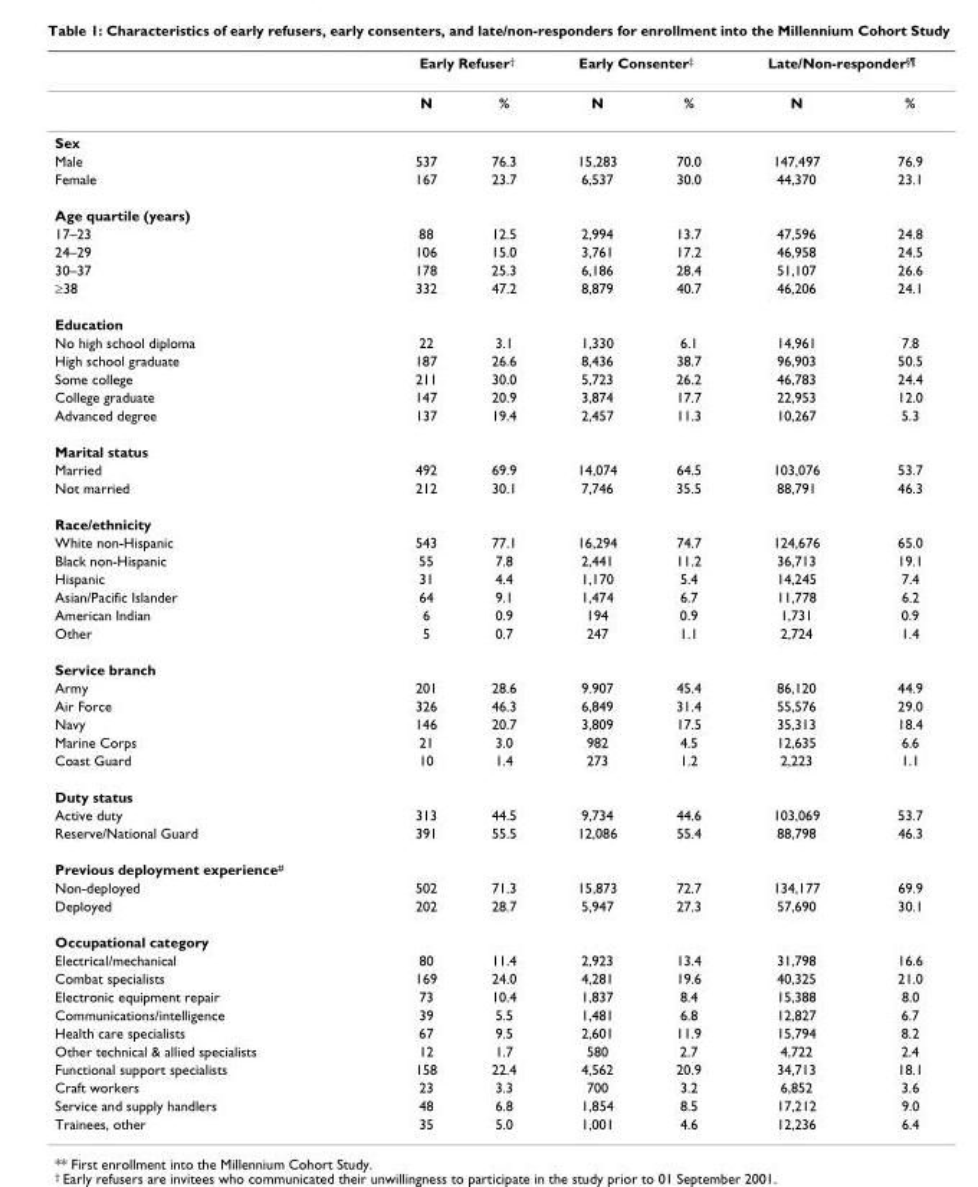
<table><thead><tr><td rowspan="2"></td><td colspan="2">Early Refuser<sup>†</sup></td><td colspan="2">Early Consenter<sup>‡</sup></td><td colspan="2">Late/Non-responder<sup>§¶</sup></td></tr><tr><td>N</td><td>%</td><td>N</td><td>%</td><td>N</td><td>%</td></tr></thead><tbody><tr><td colspan="7">Sex</td></tr><tr><td>Male</td><td>537</td><td>76.3</td><td>15,283</td><td>70.0</td><td>147,497</td><td>76.9</td></tr><tr><td>Female</td><td>167</td><td>23.7</td><td>6,537</td><td>30.0</td><td>44,370</td><td>23.1</td></tr><tr><td colspan="7">Age quartile (years)</td></tr><tr><td>17–23</td><td>88</td><td>12.5</td><td>2,994</td><td>13.7</td><td>47,596</td><td>24.8</td></tr><tr><td>24–29</td><td>106</td><td>15.0</td><td>3,761</td><td>17.2</td><td>46,958</td><td>24.5</td></tr><tr><td>30–37</td><td>178</td><td>25.3</td><td>6,186</td><td>28.4</td><td>51,107</td><td>26.6</td></tr><tr><td>≥38</td><td>332</td><td>47.2</td><td>8,879</td><td>40.7</td><td>46,206</td><td>24.1</td></tr><tr><td colspan="7">Education</td></tr><tr><td>No high school diploma</td><td>22</td><td>3.1</td><td>1,330</td><td>6.1</td><td>14,961</td><td>7.8</td></tr><tr><td>High school graduate</td><td>187</td><td>26.6</td><td>8,436</td><td>38.7</td><td>96,903</td><td>50.5</td></tr><tr><td>Some college</td><td>211</td><td>30.0</td><td>5,723</td><td>26.2</td><td>46,783</td><td>24.4</td></tr><tr><td>College graduate</td><td>147</td><td>20.9</td><td>3,874</td><td>17.7</td><td>22,953</td><td>12.0</td></tr><tr><td>Advanced degree</td><td>137</td><td>19.4</td><td>2,457</td><td>11.3</td><td>10,267</td><td>5.3</td></tr><tr><td colspan="7">Marital status</td></tr><tr><td>Married</td><td>492</td><td>69.9</td><td>14,074</td><td>64.5</td><td>103,076</td><td>53.7</td></tr><tr><td>Not married</td><td>212</td><td>30.1</td><td>7,746</td><td>35.5</td><td>88,791</td><td>46.3</td></tr><tr><td colspan="7">Race/ethnicity</td></tr><tr><td>White non-Hispanic</td><td>543</td><td>77.1</td><td>16,294</td><td>74.7</td><td>124,676</td><td>65.0</td></tr><tr><td>Black non-Hispanic</td><td>55</td><td>7.8</td><td>2,441</td><td>11.2</td><td>36,713</td><td>19.1</td></tr><tr><td>Hispanic</td><td>31</td><td>4.4</td><td>1,170</td><td>5.4</td><td>14,245</td><td>7.4</td></tr><tr><td>Asian/Pacific Islander</td><td>64</td><td>9.1</td><td>1,474</td><td>6.7</td><td>11,778</td><td>6.2</td></tr><tr><td>American Indian</td><td>6</td><td>0.9</td><td>194</td><td>0.9</td><td>1,731</td><td>0.9</td></tr><tr><td>Other</td><td>5</td><td>0.7</td><td>247</td><td>1.1</td><td>2,724</td><td>1.4</td></tr><tr><td colspan="7">Service branch</td></tr><tr><td>Army</td><td>201</td><td>28.6</td><td>9.907</td><td>45.4</td><td>86,120</td><td>44.9</td></tr><tr><td>Air Force</td><td>326</td><td>46.3</td><td>6,849</td><td>31.4</td><td>55,576</td><td>29.0</td></tr><tr><td>Navy</td><td>146</td><td>20.7</td><td>3,809</td><td>17.5</td><td>35,313</td><td>18.4</td></tr><tr><td>Marine Corps</td><td>21</td><td>3.0</td><td>982</td><td>4.5</td><td>12,635</td><td>6.6</td></tr><tr><td>Coast Guard</td><td>10</td><td>1.4</td><td>273</td><td>1.2</td><td>2,223</td><td>1.1</td></tr><tr><td colspan="7">Duty status</td></tr><tr><td>Active duty</td><td>313</td><td>44.5</td><td>9,734</td><td>44.6</td><td>103,069</td><td>53.7</td></tr><tr><td>Reserve/National Guard</td><td>391</td><td>55.5</td><td>12,086</td><td>55.4</td><td>88,798</td><td>46.3</td></tr><tr><td colspan="7">Previous deployment experience<sup>#</sup></td></tr><tr><td>Non-deployed</td><td>502</td><td>71.3</td><td>15,873</td><td>72.7</td><td>134,177</td><td>69.9</td></tr><tr><td>Deployed</td><td>202</td><td>28.7</td><td>5,947</td><td>27.3</td><td>57,690</td><td>30.1</td></tr><tr><td colspan="7">Occupational category</td></tr><tr><td>Electrical/mechanical</td><td>80</td><td>11.4</td><td>2,923</td><td>13.4</td><td>31,798</td><td>16.6</td></tr><tr><td>Combat specialists</td><td>169</td><td>24.0</td><td>4,281</td><td>19.6</td><td>40,325</td><td>21.0</td></tr><tr><td>Electronic equipment repair</td><td>73</td><td>10.4</td><td>1,837</td><td>8.4</td><td>15,388</td><td>8.0</td></tr><tr><td>Communications/intelligence</td><td>39</td><td>5.5</td><td>1,481</td><td>6.8</td><td>12,827</td><td>6.7</td></tr><tr><td>Health care specialists</td><td>67</td><td>9.5</td><td>2,601</td><td>11.9</td><td>15,794</td><td>8.2</td></tr><tr><td>Other technical &amp; allied specialists</td><td>12</td><td>1.7</td><td>580</td><td>2.7</td><td>4,722</td><td>2.4</td></tr><tr><td>Functional support specialists</td><td>158</td><td>22.4</td><td>4,562</td><td>20.9</td><td>34,713</td><td>18.1</td></tr><tr><td>Craft workers</td><td>23</td><td>3.3</td><td>700</td><td>3.2</td><td>6,852</td><td>3.6</td></tr><tr><td>Service and supply handlers</td><td>48</td><td>6.8</td><td>1,854</td><td>8.5</td><td>17,212</td><td>9.0</td></tr><tr><td>Trainees, other</td><td>35</td><td>5.0</td><td>1,001</td><td>4.6</td><td>12,236</td><td>6.4</td></tr></tbody></table>